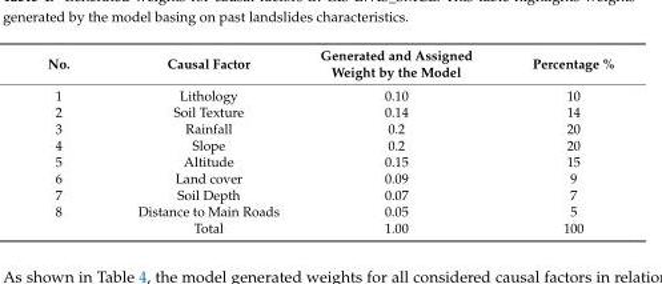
<table><thead><tr><td>No.</td><td>Causal Factor</td><td>Generated and Assigned Weight by the Model</td><td>Percentage %</td></tr></thead><tbody><tr><td>1</td><td>Lithology</td><td>0.10</td><td>10</td></tr><tr><td>2</td><td>Soil Texture</td><td>0.14</td><td>14</td></tr><tr><td>3</td><td>Rainfall</td><td>0.2</td><td>20</td></tr><tr><td>4</td><td>Slope</td><td>0.2</td><td>20</td></tr><tr><td>5</td><td>Altitude</td><td>0.15</td><td>15</td></tr><tr><td>6</td><td>Land cover</td><td>0.09</td><td>9</td></tr><tr><td>7</td><td>Soil Depth</td><td>0.07</td><td>7</td></tr><tr><td rowspan="2">8</td><td>Distance to Main Roads</td><td>0.05</td><td>5</td></tr><tr><td>Total</td><td>1.00</td><td>100</td></tr></tbody></table>